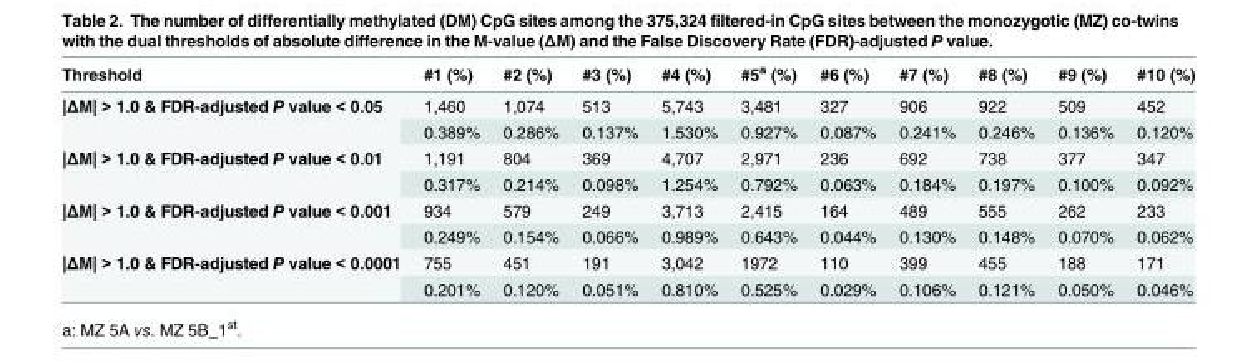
<table><thead><tr><td>Threshold</td><td>#1 (%)</td><td>#2 (%)</td><td>#3 (%)</td><td>#4 (%)</td><td>#5<sup>a</sup> (%)</td><td>#6 (%)</td><td>#7 (%)</td><td>#8 (%)</td><td>#9 (%)</td><td>#10 (%)</td></tr></thead><tbody><tr><td rowspan="2">|ΔM| &gt; 1.0 &amp; FDR-adjusted P value &lt; 0.05</td><td>1,460</td><td>1,074</td><td>513</td><td>5,743</td><td>3,481</td><td>327</td><td>906</td><td>922</td><td>509</td><td>452</td></tr><tr><td>0.389%</td><td>0.286%</td><td>0.137%</td><td>1.530%</td><td>0.927%</td><td>0.087%</td><td>0.241%</td><td>0.246%</td><td>0.136%</td><td>0.120%</td></tr><tr><td rowspan="2">|ΔM| &gt; 1.0 &amp; FDR-adjusted P value &lt; 0.01</td><td>1,191</td><td>804</td><td>369</td><td>4,707</td><td>2,971</td><td>236</td><td>692</td><td>738</td><td>377</td><td>347</td></tr><tr><td>0.317%</td><td>0.214%</td><td>0.098%</td><td>1.254%</td><td>0.792%</td><td>0.063%</td><td>0.184%</td><td>0.197%</td><td>0.100%</td><td>0.092%</td></tr><tr><td rowspan="2">|ΔM| &gt; 1.0 &amp; FDR-adjusted P value &lt; 0.001</td><td>934</td><td>579</td><td>249</td><td>3,713</td><td>2,415</td><td>164</td><td>489</td><td>555</td><td>262</td><td>233</td></tr><tr><td>0.249%</td><td>0.154%</td><td>0.066%</td><td>0.989%</td><td>0.643%</td><td>0.044%</td><td>0.130%</td><td>0.148%</td><td>0.070%</td><td>0.062%</td></tr><tr><td rowspan="2">|ΔM| &gt; 1.0 &amp; FDR-adjusted P value &lt; 0.0001</td><td>755</td><td>451</td><td>191</td><td>3,042</td><td>1972</td><td>110</td><td>399</td><td>455</td><td>188</td><td>171</td></tr><tr><td>0.201%</td><td>0.120%</td><td>0.051%</td><td>0.810%</td><td>0.525%</td><td>0.029%</td><td>0.106%</td><td>0.121%</td><td>0.050%</td><td>0.046%</td></tr></tbody></table>